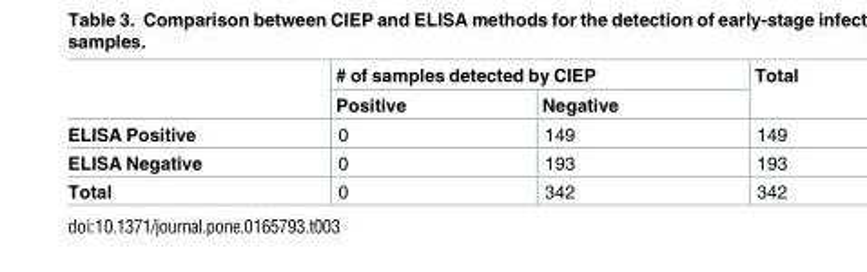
<table><thead><tr><td rowspan="2"></td><td colspan="2"># of samples detected by CIEP</td><td rowspan="2">Total</td></tr><tr><td>Positive</td><td>Negative</td></tr></thead><tbody><tr><td>ELISA Positive</td><td>0</td><td>149</td><td>149</td></tr><tr><td>ELISA Negative</td><td>0</td><td>193</td><td>193</td></tr><tr><td>Total</td><td>0</td><td>342</td><td>342</td></tr></tbody></table>